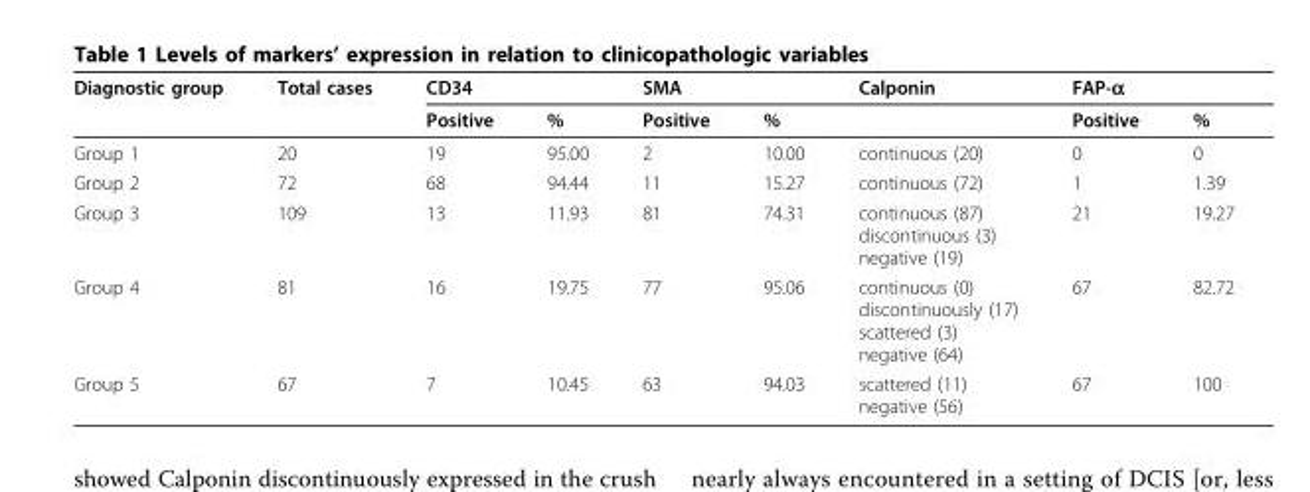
<table><thead><tr><td rowspan="2">Diagnostic group</td><td rowspan="2">Total cases</td><td colspan="2">CD34</td><td colspan="2">SMA</td><td rowspan="2">Calponin</td><td colspan="2">FAP-α</td></tr><tr><td>Positive</td><td>%</td><td>Positive</td><td>%</td><td>Positive</td><td>%</td></tr></thead><tbody><tr><td>Group 1</td><td>20</td><td>19</td><td>95.00</td><td>2</td><td>10.00</td><td>continuous (20)</td><td>0</td><td>0</td></tr><tr><td>Group 2</td><td>72</td><td>68</td><td>94.44</td><td>11</td><td>15.27</td><td>continuous (72)</td><td>1</td><td>1.39</td></tr><tr><td>Group 3</td><td>109</td><td>13</td><td>11.93</td><td>81</td><td>74.31</td><td>continuous (87) discontinuous (3) negative (19)</td><td>21</td><td>19.27</td></tr><tr><td>Group 4</td><td>81</td><td>16</td><td>19.75</td><td>77</td><td>95.06</td><td>continuous (0) discontinuously (17) scattered (3) negative (64)</td><td>67</td><td>82.72</td></tr><tr><td>Group 5</td><td>67</td><td>7</td><td>10.45</td><td>63</td><td>94.03</td><td>scattered (11) negative (56)</td><td>67</td><td>100</td></tr></tbody></table>